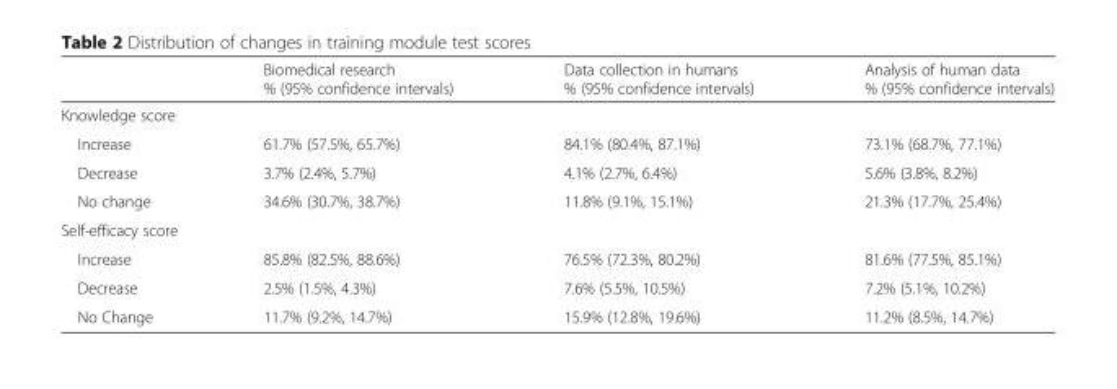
<table><thead><tr><td></td><td>Biomedical research % (95% confidence intervals)</td><td>Data collection in humans % (95% confidence intervals)</td><td>Analysis of human data % (95% confidence intervals)</td></tr></thead><tbody><tr><td colspan="4">Knowledge score</td></tr><tr><td>Increase</td><td>61.7% (57.5%, 65.7%)</td><td>84.1% (80.4%, 87.1%)</td><td>73.1% (68.7%, 77.1%)</td></tr><tr><td>Decrease</td><td>3.7% (2.4%, 5.7%)</td><td>4.1% (2.7%, 6.4%)</td><td>5.6% (3.8%, 8.2%)</td></tr><tr><td>No change</td><td>34.6% (30.7%, 38.7%)</td><td>11.8% (9.1%, 15.1%)</td><td>21.3% (17.7%, 25.4%)</td></tr><tr><td colspan="4">Self-efficacy score</td></tr><tr><td>Increase</td><td>85.8% (82.5%, 88.6%)</td><td>76.5% (72.3%, 80.2%)</td><td>81.6% (77.5%, 85.1%)</td></tr><tr><td>Decrease</td><td>2.5% (1.5%, 4.3%)</td><td>7.6% (5.5%, 10.5%)</td><td>7.2% (5.1%, 10.2%)</td></tr><tr><td>No Change</td><td>11.7% (9.2%, 14.7%)</td><td>15.9% (12.8%, 19.6%)</td><td>11.2% (8.5%, 14.7%)</td></tr></tbody></table>